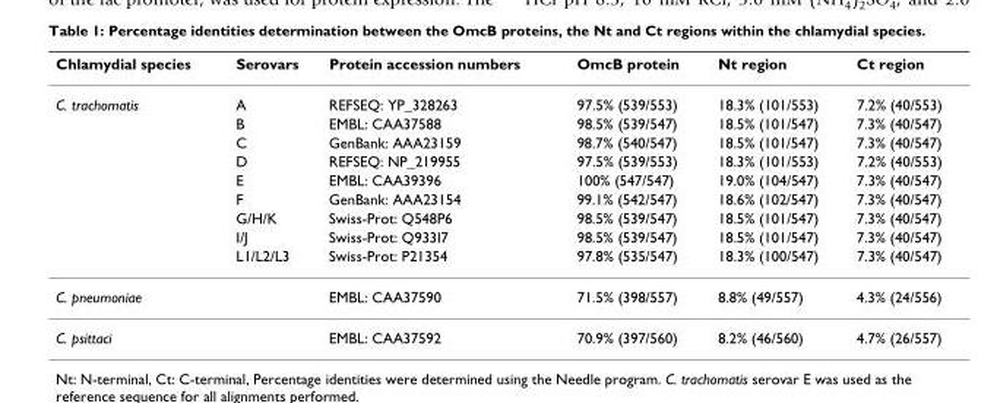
<table><thead><tr><td>Chlamydial species</td><td>Serovars</td><td>Protein accession numbers</td><td>OmcB protein</td><td>Nt region</td><td>Ct region</td></tr></thead><tbody><tr><td rowspan="9">C. trachomatis</td><td>A</td><td>REFSEQ: YP_328263</td><td>97.5% (539/553)</td><td>18.3% (101/553)</td><td>7.2% (40/553)</td></tr><tr><td>B</td><td>EMBL: CAA37588</td><td>98.5% (539/547)</td><td>18.5% (101/547)</td><td>7.3% (40/547)</td></tr><tr><td>C</td><td>GenBank: AAA23159</td><td>98.7% (540/547)</td><td>18.5% (101/547)</td><td>7.3% (40/547)</td></tr><tr><td>D</td><td>REFSEQ: NP_219955</td><td>97.5% (539/553)</td><td>18.3% (101/553)</td><td>7.2% (40/553)</td></tr><tr><td>E</td><td>EMBL: CAA39396</td><td>100% (547/547)</td><td>19.0% (104/547)</td><td>7.3% (40/547)</td></tr><tr><td>F</td><td>GenBank: AAA23154</td><td>99.1% (542/547)</td><td>18.6% (102/547)</td><td>7.3% (40/547)</td></tr><tr><td>G/H/K</td><td>Swiss-Prot: Q548P6</td><td>98.5% (539/547)</td><td>18.5% (101/547)</td><td>7.3% (40/547)</td></tr><tr><td>I/J</td><td>Swiss-Prot: Q933I7</td><td>98.5% (539/547)</td><td>18.5% (101/547)</td><td>7.3% (40/547)</td></tr><tr><td>L1/L2/L3</td><td>Swiss-Prot: P21354</td><td>97.8% (535/547)</td><td>18.3% (100/547)</td><td>7.3% (40/547)</td></tr><tr><td>C. pneumoniae</td><td></td><td>EMBL: CAA37590</td><td>71.5% (398/557)</td><td>8.8% (49/557)</td><td>4.3% (24/556)</td></tr><tr><td>C. psittaci</td><td></td><td>EMBL: CAA37592</td><td>70.9% (397/560)</td><td>8.2% (46/560)</td><td>4.7% (26/557)</td></tr></tbody></table>